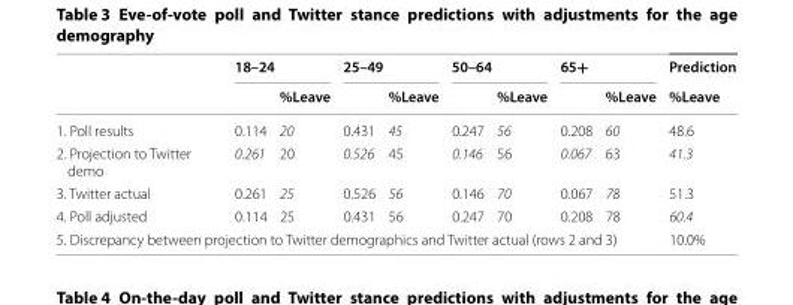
<table><thead><tr><td rowspan="2"></td><td colspan="2">18–24</td><td colspan="2">25–49</td><td colspan="2">50–64</td><td colspan="2">65+</td><td rowspan="2">Prediction %Leave</td></tr><tr><td></td><td>%Leave</td><td></td><td>%Leave</td><td></td><td>%Leave</td><td></td><td>%Leave</td></tr></thead><tbody><tr><td>1. Poll results</td><td>0.114</td><td>20</td><td>0.431</td><td>45</td><td>0.247</td><td>56</td><td>0.208</td><td>60</td><td>48.6</td></tr><tr><td>2. Projection to Twitter demo</td><td>0.261</td><td>20</td><td>0.526</td><td>45</td><td>0.146</td><td>56</td><td>0.067</td><td>63</td><td>41.3</td></tr><tr><td>3. Twitter actual</td><td>0.261</td><td>25</td><td>0.526</td><td>56</td><td>0.146</td><td>70</td><td>0.067</td><td>78</td><td>51.3</td></tr><tr><td>4. Poll adjusted</td><td>0.114</td><td>25</td><td>0.431</td><td>56</td><td>0.247</td><td>70</td><td>0.208</td><td>78</td><td>60.4</td></tr><tr><td colspan="9">5. Discrepancy between projection to Twitter demographics and Twitter actual (rows 2 and 3)</td><td>10.0%</td></tr></tbody></table>